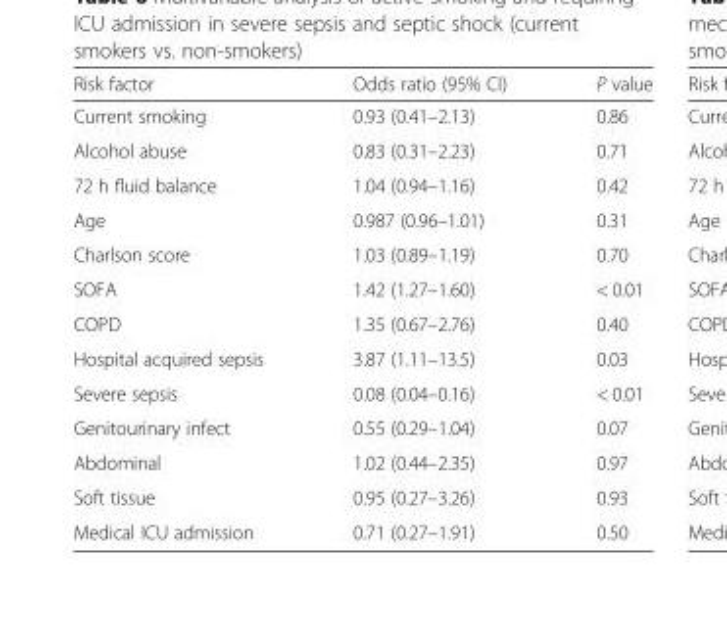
<table><thead><tr><td>Risk factor</td><td>Odds ratio (95% CI)</td><td>P value</td></tr></thead><tbody><tr><td>Current smoking</td><td>0.93 (0.41–2.13)</td><td>0.86</td></tr><tr><td>Alcohol abuse</td><td>0.83 (0.31–2.23)</td><td>0.71</td></tr><tr><td>72 h fluid balance</td><td>1.04 (0.94–1.16)</td><td>0.42</td></tr><tr><td>Age</td><td>0.987 (0.96–1.01)</td><td>0.31</td></tr><tr><td>Charlson score</td><td>1.03 (0.89–1.19)</td><td>0.70</td></tr><tr><td>SOFA</td><td>1.42 (1.27–1.60)</td><td>&lt; 0.01</td></tr><tr><td>COPD</td><td>1.35 (0.67–2.76)</td><td>0.40</td></tr><tr><td>Hospital acquired sepsis</td><td>3.87 (1.11–13.5)</td><td>0.03</td></tr><tr><td>Severe sepsis</td><td>0.08 (0.04–0.16)</td><td>&lt; 0.01</td></tr><tr><td>Genitourinary infect</td><td>0.55 (0.29–1.04)</td><td>0.07</td></tr><tr><td>Abdominal</td><td>1.02 (0.44–2.35)</td><td>0.97</td></tr><tr><td>Soft tissue</td><td>0.95 (0.27–3.26)</td><td>0.93</td></tr><tr><td>Medical ICU admission</td><td>0.71 (0.27–1.91)</td><td>0.50</td></tr></tbody></table>